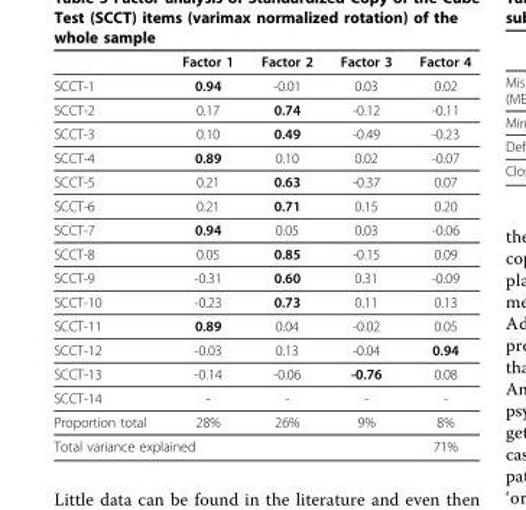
<table><thead><tr><td></td><td>Factor 1</td><td>Factor 2</td><td>Factor 3</td><td>Factor 4</td></tr></thead><tbody><tr><td>SCCT-1</td><td>0.94</td><td>-0.01</td><td>0.03</td><td>0.02</td></tr><tr><td>SCCT-2</td><td>0.17</td><td>0.74</td><td>-0.12</td><td>-0.11</td></tr><tr><td>SCCT-3</td><td>0.10</td><td>0.49</td><td>-0.49</td><td>-0.23</td></tr><tr><td>SCCT-4</td><td>0.89</td><td>0.10</td><td>0.02</td><td>-0.07</td></tr><tr><td>SCCT-5</td><td>0.21</td><td>0.63</td><td>-0.37</td><td>0.07</td></tr><tr><td>SCCT-6</td><td>0.21</td><td>0.71</td><td>0.15</td><td>0.20</td></tr><tr><td>SCCT-7</td><td>0.94</td><td>0.05</td><td>0.03</td><td>-0.06</td></tr><tr><td>SCCT-8</td><td>0.05</td><td>0.85</td><td>-0.15</td><td>0.09</td></tr><tr><td>SCCT-9</td><td>-0.31</td><td>0.60</td><td>0.31</td><td>-0.09</td></tr><tr><td>SCCT-10</td><td>-0.23</td><td>0.73</td><td>0.11</td><td>0.13</td></tr><tr><td>SCCT-11</td><td>0.89</td><td>0.04</td><td>-0.02</td><td>0.05</td></tr><tr><td>SCCT-12</td><td>-0.03</td><td>0.13</td><td>-0.04</td><td>0.94</td></tr><tr><td>SCCT-13</td><td>-0.14</td><td>-0.06</td><td>-0.76</td><td>0.08</td></tr><tr><td>SCCT-14</td><td>-</td><td>-</td><td>-</td><td>-</td></tr><tr><td>Proportion total</td><td>28%</td><td>26%</td><td>9%</td><td>8%</td></tr><tr><td colspan="4">Total variance explained</td><td>71%</td></tr></tbody></table>